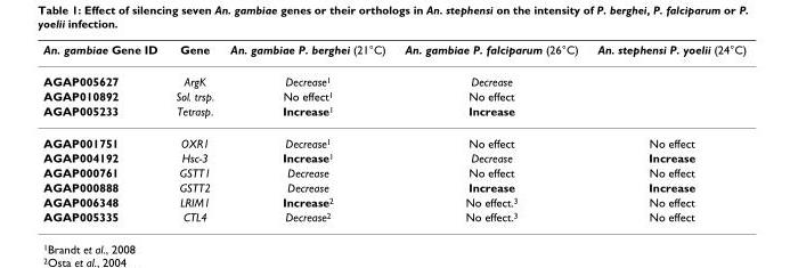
<table><thead><tr><td>An. gambiae Gene ID</td><td>Gene</td><td>An. gambiae P. berghei (21°C)</td><td>An. gambiae P. falciparum (26°C)</td><td>An. stephensi P. yoelii (24°C)</td></tr></thead><tbody><tr><td>AGAP005627</td><td>ArgK</td><td>Decrease<sup>1</sup></td><td>Decrease</td><td></td></tr><tr><td>AGAP010892</td><td>Sol. trsp.</td><td>No effect<sup>1</sup></td><td>No effect</td><td></td></tr><tr><td>AGAP005233</td><td>Tetrasp.</td><td>Increase<sup>1</sup></td><td>Increase</td><td></td></tr><tr><td>AGAP001751</td><td>OXR1</td><td>Decrease<sup>1</sup></td><td>No effect</td><td>No effect</td></tr><tr><td>AGAP004192</td><td>Hsc-3</td><td>Increase<sup>1</sup></td><td>Decrease</td><td>Increase</td></tr><tr><td>AGAP000761</td><td>GSTT1</td><td>Decrease</td><td>No effect</td><td>No effect</td></tr><tr><td>AGAP000888</td><td>GSTT2</td><td>Decrease</td><td>Increase</td><td>Increase</td></tr><tr><td>AGAP006348</td><td>LRIM1</td><td>Increase<sup>2</sup></td><td>No effect.<sup>3</sup></td><td>No effect</td></tr><tr><td>AGAP005335</td><td>CTL4</td><td>Decrease<sup>2</sup></td><td>No effect.<sup>3</sup></td><td>No effect</td></tr></tbody></table>